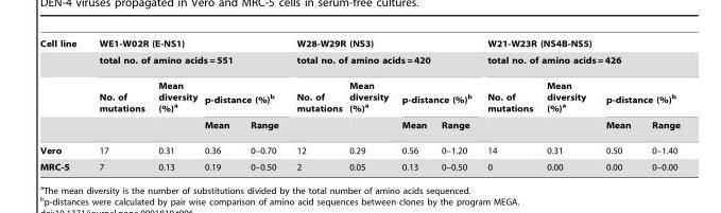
<table><thead><tr><td rowspan="4">Cell line</td><td rowspan="2" colspan="4">WE1-W02R (E-NS1) total no. of amino acids = 551</td><td rowspan="2" colspan="4">W28-W29R (NS3) total no. of amino acids = 420</td><td rowspan="2" colspan="4">W21-W23R (NS4B-NS5) total no. of amino acids = 426</td></tr><tr></tr><tr><td rowspan="2">No. of mutations</td><td rowspan="2">Mean diversity (%)<sup>a</sup></td><td colspan="2">p-distance (%)<sup>b</sup></td><td rowspan="2">No. of mutations</td><td rowspan="2">Mean diversity (%)<sup>a</sup></td><td colspan="2">p-distance (%)<sup>b</sup></td><td rowspan="2">No. of mutations</td><td rowspan="2">Mean diversity (%)<sup>a</sup></td><td colspan="2">p-distance (%)<sup>b</sup></td></tr><tr><td>Mean</td><td>Range</td><td>Mean</td><td>Range</td><td>Mean</td><td>Range</td></tr></thead><tbody><tr><td>Vero</td><td>17</td><td>0.31</td><td>0.36</td><td>0–0.70</td><td>12</td><td>0.29</td><td>0.56</td><td>0–1.20</td><td>14</td><td>0.31</td><td>0.50</td><td>0–1.40</td></tr><tr><td>MRC-5</td><td>7</td><td>0.13</td><td>0.19</td><td>0–0.50</td><td>2</td><td>0.05</td><td>0.13</td><td>0–0.50</td><td>0</td><td>0.00</td><td>0.00</td><td>0–0.00</td></tr></tbody></table>